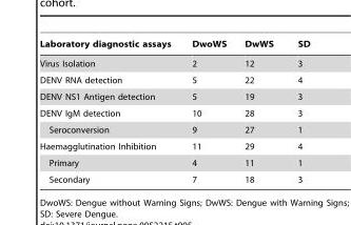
<table><thead><tr><td>Laboratory diagnostic assays</td><td>DwoWS</td><td>DwWS</td><td>SD</td></tr></thead><tbody><tr><td>Virus Isolation</td><td>2</td><td>12</td><td>3</td></tr><tr><td>DENV RNA detection</td><td>5</td><td>22</td><td>4</td></tr><tr><td>DENV NS1 Antigen detection</td><td>5</td><td>19</td><td>3</td></tr><tr><td>DENV IgM detection</td><td>10</td><td>28</td><td>3</td></tr><tr><td>Seroconversion</td><td>9</td><td>27</td><td>1</td></tr><tr><td>Haemagglutination Inhibition</td><td>11</td><td>29</td><td>4</td></tr><tr><td>Primary</td><td>4</td><td>11</td><td>1</td></tr><tr><td>Secondary</td><td>7</td><td>18</td><td>3</td></tr></tbody></table>